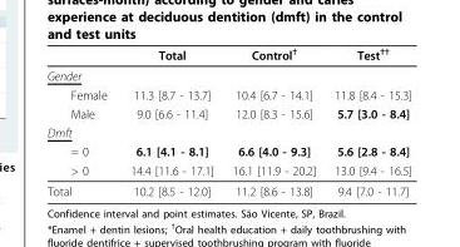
<table><thead><tr><td></td><td>Total</td><td>Control<sup>†</sup></td><td>Test<sup>††</sup></td></tr></thead><tbody><tr><td colspan="4">Gender</td></tr><tr><td>Female</td><td>11.3 [8.7 - 13.7]</td><td>10.4 [6.7 - 14.1]</td><td>11.8 [8.4 - 15.3]</td></tr><tr><td>Male</td><td>9.0 [6.6 - 11.4]</td><td>12.0 [8.3 - 15.6]</td><td>5.7 [3.0 - 8.4]</td></tr><tr><td colspan="4">Dmft</td></tr><tr><td>= 0</td><td>6.1 [4.1 - 8.1]</td><td>6.6 [4.0 - 9.3]</td><td>5.6 [2.8 - 8.4]</td></tr><tr><td>&gt; 0</td><td>14.4 [11.6 - 17.1]</td><td>16.1 [11.9 - 20.2]</td><td>13.0 [9.4 - 16.5]</td></tr><tr><td>Total</td><td>10.2 [8.5 - 12.0]</td><td>11.2 [8.6 - 13.8]</td><td>9.4 [7.0 - 11.7]</td></tr></tbody></table>